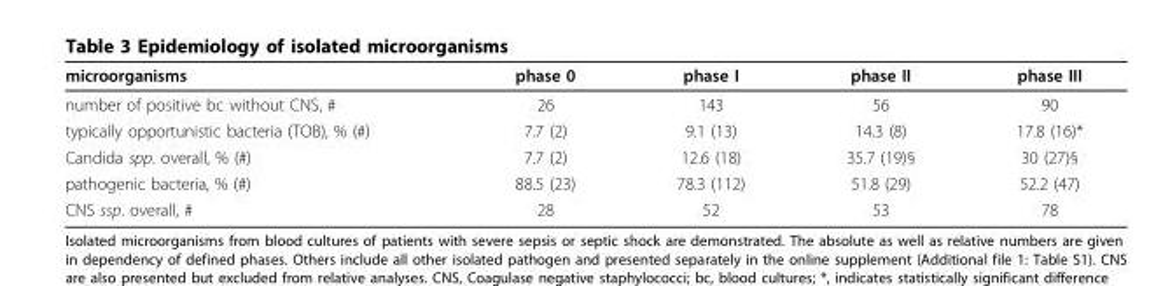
<table><thead><tr><td>microorganisms</td><td>phase 0</td><td>phase I</td><td>phase II</td><td>phase III</td></tr></thead><tbody><tr><td>number of positive bc without CNS, #</td><td>26</td><td>143</td><td>56</td><td>90</td></tr><tr><td>typically opportunistic bacteria (TOB), % (#)</td><td>7.7 (2)</td><td>9.1 (13)</td><td>14.3 (8)</td><td>17.8 (16)*</td></tr><tr><td>Candida spp. overall, % (#)</td><td>7.7 (2)</td><td>12.6 (18)</td><td>35.7 (19)§</td><td>30 (27)§</td></tr><tr><td>pathogenic bacteria, % (#)</td><td>88.5 (23)</td><td>78.3 (112)</td><td>51.8 (29)</td><td>52.2 (47)</td></tr><tr><td>CNS ssp. overall, #</td><td>28</td><td>52</td><td>53</td><td>78</td></tr></tbody></table>